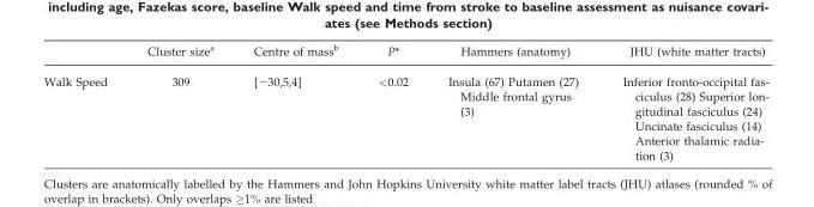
<table><thead><tr><td></td><td>Cluster size<sup>a</sup></td><td>Centre of mass<sup>b</sup></td><td>P*</td><td>Hammers (anatomy)</td><td>JHU (white matter tracts)</td></tr></thead><tbody><tr><td>Walk Speed</td><td>309</td><td>[−30,5,4]</td><td>&lt;0.02</td><td>Insula (67) Putamen (27) Middle frontal gyrus (3)</td><td>Inferior fronto-occipital fas- ciculus (28) Superior lon- gitudinal fasciculus (24) Uncinate fasciculus (14) Anterior thalamic radia- tion (3)</td></tr></tbody></table>